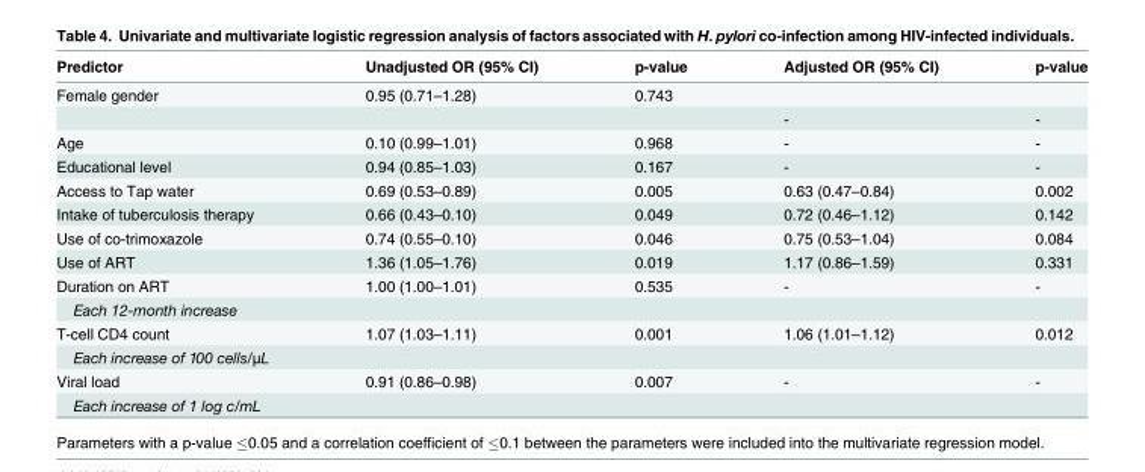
<table><thead><tr><td>Predictor</td><td>Unadjusted OR (95% CI)</td><td>p-value</td><td>Adjusted OR (95% CI)</td><td>p-value</td></tr></thead><tbody><tr><td rowspan="2">Female gender</td><td>0.95 (0.71–1.28)</td><td>0.743</td><td></td><td></td></tr><tr><td></td><td></td><td>-</td><td>-</td></tr><tr><td>Age</td><td>0.10 (0.99–1.01)</td><td>0.968</td><td>-</td><td>-</td></tr><tr><td>Educational level</td><td>0.94 (0.85–1.03)</td><td>0.167</td><td>-</td><td>-</td></tr><tr><td>Access to Tap water</td><td>0.69 (0.53–0.89)</td><td>0.005</td><td>0.63 (0.47–0.84)</td><td>0.002</td></tr><tr><td>Intake of tuberculosis therapy</td><td>0.66 (0.43–0.10)</td><td>0.049</td><td>0.72 (0.46–1.12)</td><td>0.142</td></tr><tr><td>Use of co-trimoxazole</td><td>0.74 (0.55–0.10)</td><td>0.046</td><td>0.75 (0.53–1.04)</td><td>0.084</td></tr><tr><td>Use of ART</td><td>1.36 (1.05–1.76)</td><td>0.019</td><td>1.17 (0.86–1.59)</td><td>0.331</td></tr><tr><td>Duration on ART</td><td>1.00 (1.00–1.01)</td><td>0.535</td><td>-</td><td>-</td></tr><tr><td colspan="5">Each 12-month increase</td></tr><tr><td>T-cell CD4 count</td><td>1.07 (1.03–1.11)</td><td>0.001</td><td>1.06 (1.01–1.12)</td><td>0.012</td></tr><tr><td colspan="5">Each increase of 100 cells/μL</td></tr><tr><td>Viral load</td><td>0.91 (0.86–0.98)</td><td>0.007</td><td>-</td><td>-</td></tr><tr><td>Each increase of 1 log c/mL</td><td></td><td></td><td></td><td></td></tr></tbody></table>